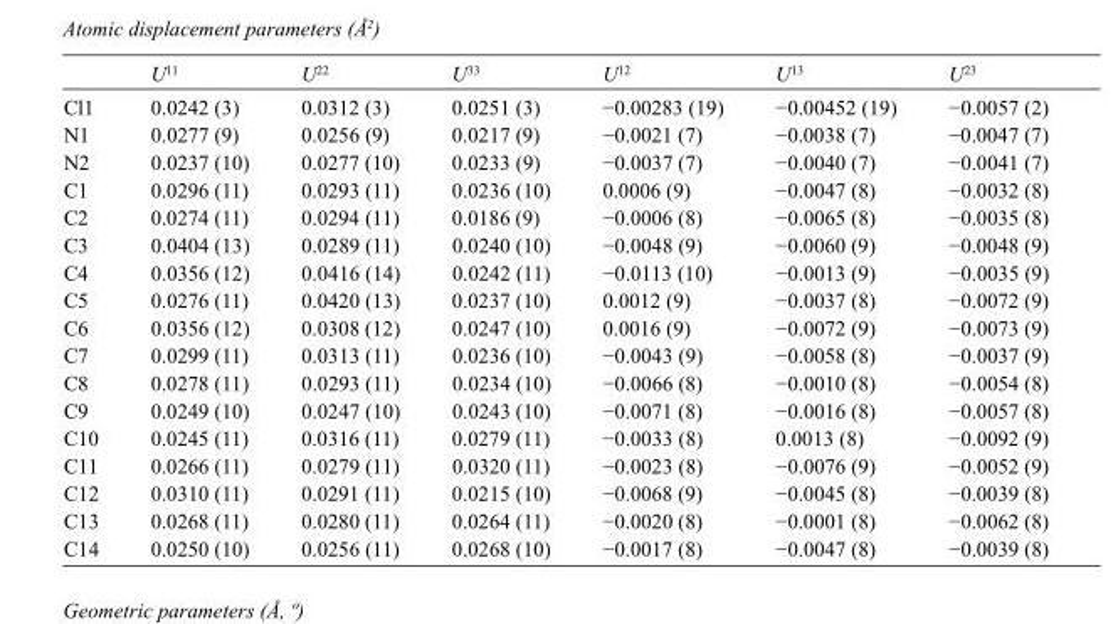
<table><thead><tr><td></td><td>U<sup>11</sup></td><td>U<sup>22</sup></td><td>U<sup>33</sup></td><td>U<sup>12</sup></td><td>U<sup>13</sup></td><td>U<sup>23</sup></td></tr></thead><tbody><tr><td>Cl1</td><td>0.0242 (3)</td><td>0.0312 (3)</td><td>0.0251 (3)</td><td>−0.00283 (19)</td><td>−0.00452 (19)</td><td>−0.0057 (2)</td></tr><tr><td>N1</td><td>0.0277 (9)</td><td>0.0256 (9)</td><td>0.0217 (9)</td><td>−0.0021 (7)</td><td>−0.0038 (7)</td><td>−0.0047 (7)</td></tr><tr><td>N2</td><td>0.0237 (10)</td><td>0.0277 (10)</td><td>0.0233 (9)</td><td>−0.0037 (7)</td><td>−0.0040 (7)</td><td>−0.0041 (7)</td></tr><tr><td>C1</td><td>0.0296 (11)</td><td>0.0293 (11)</td><td>0.0236 (10)</td><td>0.0006 (9)</td><td>−0.0047 (8)</td><td>−0.0032 (8)</td></tr><tr><td>C2</td><td>0.0274 (11)</td><td>0.0294 (11)</td><td>0.0186 (9)</td><td>−0.0006 (8)</td><td>−0.0065 (8)</td><td>−0.0035 (8)</td></tr><tr><td>C3</td><td>0.0404 (13)</td><td>0.0289 (11)</td><td>0.0240 (10)</td><td>−0.0048 (9)</td><td>−0.0060 (9)</td><td>−0.0048 (9)</td></tr><tr><td>C4</td><td>0.0356 (12)</td><td>0.0416 (14)</td><td>0.0242 (11)</td><td>−0.0113 (10)</td><td>−0.0013 (9)</td><td>−0.0035 (9)</td></tr><tr><td>C5</td><td>0.0276 (11)</td><td>0.0420 (13)</td><td>0.0237 (10)</td><td>0.0012 (9)</td><td>−0.0037 (8)</td><td>−0.0072 (9)</td></tr><tr><td>C6</td><td>0.0356 (12)</td><td>0.0308 (12)</td><td>0.0247 (10)</td><td>0.0016 (9)</td><td>−0.0072 (9)</td><td>−0.0073 (9)</td></tr><tr><td>C7</td><td>0.0299 (11)</td><td>0.0313 (11)</td><td>0.0236 (10)</td><td>−0.0043 (9)</td><td>−0.0058 (8)</td><td>−0.0037 (9)</td></tr><tr><td>C8</td><td>0.0278 (11)</td><td>0.0293 (11)</td><td>0.0234 (10)</td><td>−0.0066 (8)</td><td>−0.0010 (8)</td><td>−0.0054 (8)</td></tr><tr><td>C9</td><td>0.0249 (10)</td><td>0.0247 (10)</td><td>0.0243 (10)</td><td>−0.0071 (8)</td><td>−0.0016 (8)</td><td>−0.0057 (8)</td></tr><tr><td>C10</td><td>0.0245 (11)</td><td>0.0316 (11)</td><td>0.0279 (11)</td><td>−0.0033 (8)</td><td>0.0013 (8)</td><td>−0.0092 (9)</td></tr><tr><td>C11</td><td>0.0266 (11)</td><td>0.0279 (11)</td><td>0.0320 (11)</td><td>−0.0023 (8)</td><td>−0.0076 (9)</td><td>−0.0052 (9)</td></tr><tr><td>C12</td><td>0.0310 (11)</td><td>0.0291 (11)</td><td>0.0215 (10)</td><td>−0.0068 (9)</td><td>−0.0045 (8)</td><td>−0.0039 (8)</td></tr><tr><td>C13</td><td>0.0268 (11)</td><td>0.0280 (11)</td><td>0.0264 (11)</td><td>−0.0020 (8)</td><td>−0.0001 (8)</td><td>−0.0062 (8)</td></tr><tr><td>C14</td><td>0.0250 (10)</td><td>0.0256 (11)</td><td>0.0268 (10)</td><td>−0.0017 (8)</td><td>−0.0047 (8)</td><td>−0.0039 (8)</td></tr></tbody></table>